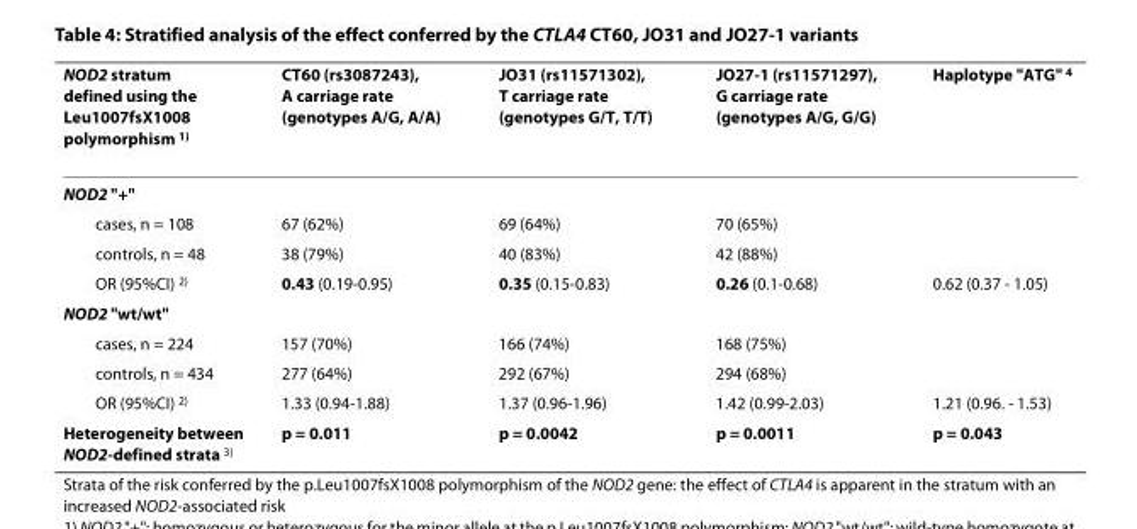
<table><thead><tr><td>NOD2 stratum defined using the Leu1007fsX1008 polymorphism <sup>1)</sup></td><td>CT60 (rs3087243), A carriage rate (genotypes A/G, A/A)</td><td>JO31 (rs11571302), T carriage rate (genotypes G/T, T/T)</td><td>JO27-1 (rs11571297), G carriage rate (genotypes A/G, G/G)</td><td>Haplotype &quot;ATG&quot; <sup>4</sup></td></tr></thead><tbody><tr><td colspan="5">NOD2 &quot;+&quot;</td></tr><tr><td>cases, n = 108</td><td>67 (62%)</td><td>69 (64%)</td><td>70 (65%)</td><td></td></tr><tr><td>controls, n = 48</td><td>38 (79%)</td><td>40 (83%)</td><td>42 (88%)</td><td></td></tr><tr><td>OR (95%CI) <sup>2)</sup></td><td>0.43 (0.19-0.95)</td><td>0.35 (0.15-0.83)</td><td>0.26 (0.1-0.68)</td><td>0.62 (0.37 - 1.05)</td></tr><tr><td colspan="5">NOD2 &quot;wt/wt&quot;</td></tr><tr><td>cases, n = 224</td><td>157 (70%)</td><td>166 (74%)</td><td>168 (75%)</td><td></td></tr><tr><td>controls, n = 434</td><td>277 (64%)</td><td>292 (67%)</td><td>294 (68%)</td><td></td></tr><tr><td>OR (95%CI) <sup>2)</sup></td><td>1.33 (0.94-1.88)</td><td>1.37 (0.96-1.96)</td><td>1.42 (0.99-2.03)</td><td>1.21 (0.96. - 1.53)</td></tr><tr><td>Heterogeneity between NOD2-defined strata <sup>3)</sup></td><td>p = 0.011</td><td>p = 0.0042</td><td>p = 0.0011</td><td>p = 0.043</td></tr></tbody></table>